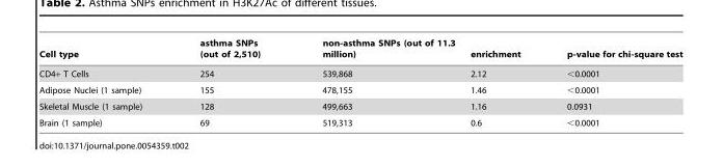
<table><thead><tr><td>Cell type</td><td>asthma SNPs (out of 2,510)</td><td>non-asthma SNPs (out of 11.3 million)</td><td>enrichment</td><td>p-value for chi-square test</td></tr></thead><tbody><tr><td>CD4+ T Cells</td><td>254</td><td>539,868</td><td>2.12</td><td>&lt;0.0001</td></tr><tr><td>Adipose Nuclei (1 sample)</td><td>155</td><td>478,155</td><td>1.46</td><td>&lt;0.0001</td></tr><tr><td>Skeletal Muscle (1 sample)</td><td>128</td><td>499,663</td><td>1.16</td><td>0.0931</td></tr><tr><td>Brain (1 sample)</td><td>69</td><td>519,313</td><td>0.6</td><td>&lt;0.0001</td></tr></tbody></table>